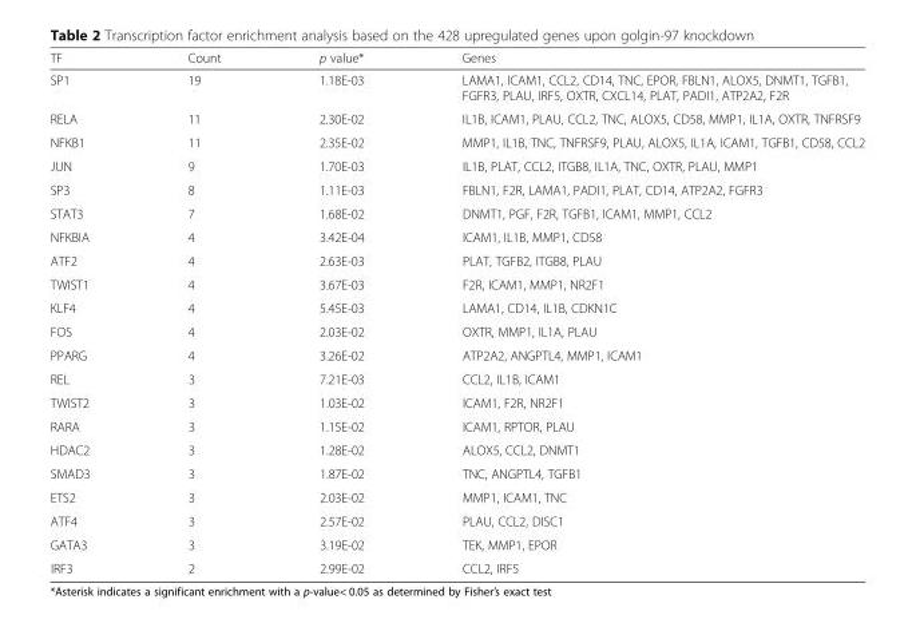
<table><thead><tr><td>TF</td><td>Count</td><td>p value*</td><td>Genes</td></tr></thead><tbody><tr><td>SP1</td><td>19</td><td>1.18E-03</td><td>LAMA1, ICAM1, CCL2, CD14, TNC, EPOR, FBLN1, ALOX5, DNMT1, TGFB1, FGFR3, PLAU, IRF5, OXTR, CXCL14, PLAT, PADI1, ATP2A2, F2R</td></tr><tr><td>RELA</td><td>11</td><td>2.30E-02</td><td>IL1B, ICAM1, PLAU, CCL2, TNC, ALOX5, CD58, MMP1, IL1A, OXTR, TNFRSF9</td></tr><tr><td>NFKB1</td><td>11</td><td>2.35E-02</td><td>MMP1, IL1B, TNC, TNFRSF9, PLAU, ALOX5, IL1A, ICAM1, TGFB1, CD58, CCL2</td></tr><tr><td>JUN</td><td>9</td><td>1.70E-03</td><td>IL1B, PLAT, CCL2, ITGB8, IL1A, TNC, OXTR, PLAU, MMP1</td></tr><tr><td>SP3</td><td>8</td><td>1.11E-03</td><td>FBLN1, F2R, LAMA1, PADI1, PLAT, CD14, ATP2A2, FGFR3</td></tr><tr><td>STAT3</td><td>7</td><td>1.68E-02</td><td>DNMT1, PGF, F2R, TGFB1, ICAM1, MMP1, CCL2</td></tr><tr><td>NFKBIA</td><td>4</td><td>3.42E-04</td><td>ICAM1, IL1B, MMP1, CD58</td></tr><tr><td>ATF2</td><td>4</td><td>2.63E-03</td><td>PLAT, TGFB2, ITGB8, PLAU</td></tr><tr><td>TWIST1</td><td>4</td><td>3.67E-03</td><td>F2R, ICAM1, MMP1, NR2F1</td></tr><tr><td>KLF4</td><td>4</td><td>5.45E-03</td><td>LAMA1, CD14, IL1B, CDKN1C</td></tr><tr><td>FOS</td><td>4</td><td>2.03E-02</td><td>OXTR, MMP1, IL1A, PLAU</td></tr><tr><td>PPARG</td><td>4</td><td>3.26E-02</td><td>ATP2A2, ANGPTL4, MMP1, ICAM1</td></tr><tr><td>REL</td><td>3</td><td>7.21E-03</td><td>CCL2, IL1B, ICAM1</td></tr><tr><td>TWIST2</td><td>3</td><td>1.03E-02</td><td>ICAM1, F2R, NR2F1</td></tr><tr><td>RARA</td><td>3</td><td>1.15E-02</td><td>ICAM1, RPTOR, PLAU</td></tr><tr><td>HDAC2</td><td>3</td><td>1.28E-02</td><td>ALOX5, CCL2, DNMT1</td></tr><tr><td>SMAD3</td><td>3</td><td>1.87E-02</td><td>TNC, ANGPTL4, TGFB1</td></tr><tr><td>ETS2</td><td>3</td><td>2.03E-02</td><td>MMP1, ICAM1, TNC</td></tr><tr><td>ATF4</td><td>3</td><td>2.57E-02</td><td>PLAU, CCL2, DISC1</td></tr><tr><td>GATA3</td><td>3</td><td>3.19E-02</td><td>TEK, MMP1, EPOR</td></tr><tr><td>IRF3</td><td>2</td><td>2.99E-02</td><td>CCL2, IRF5</td></tr></tbody></table>